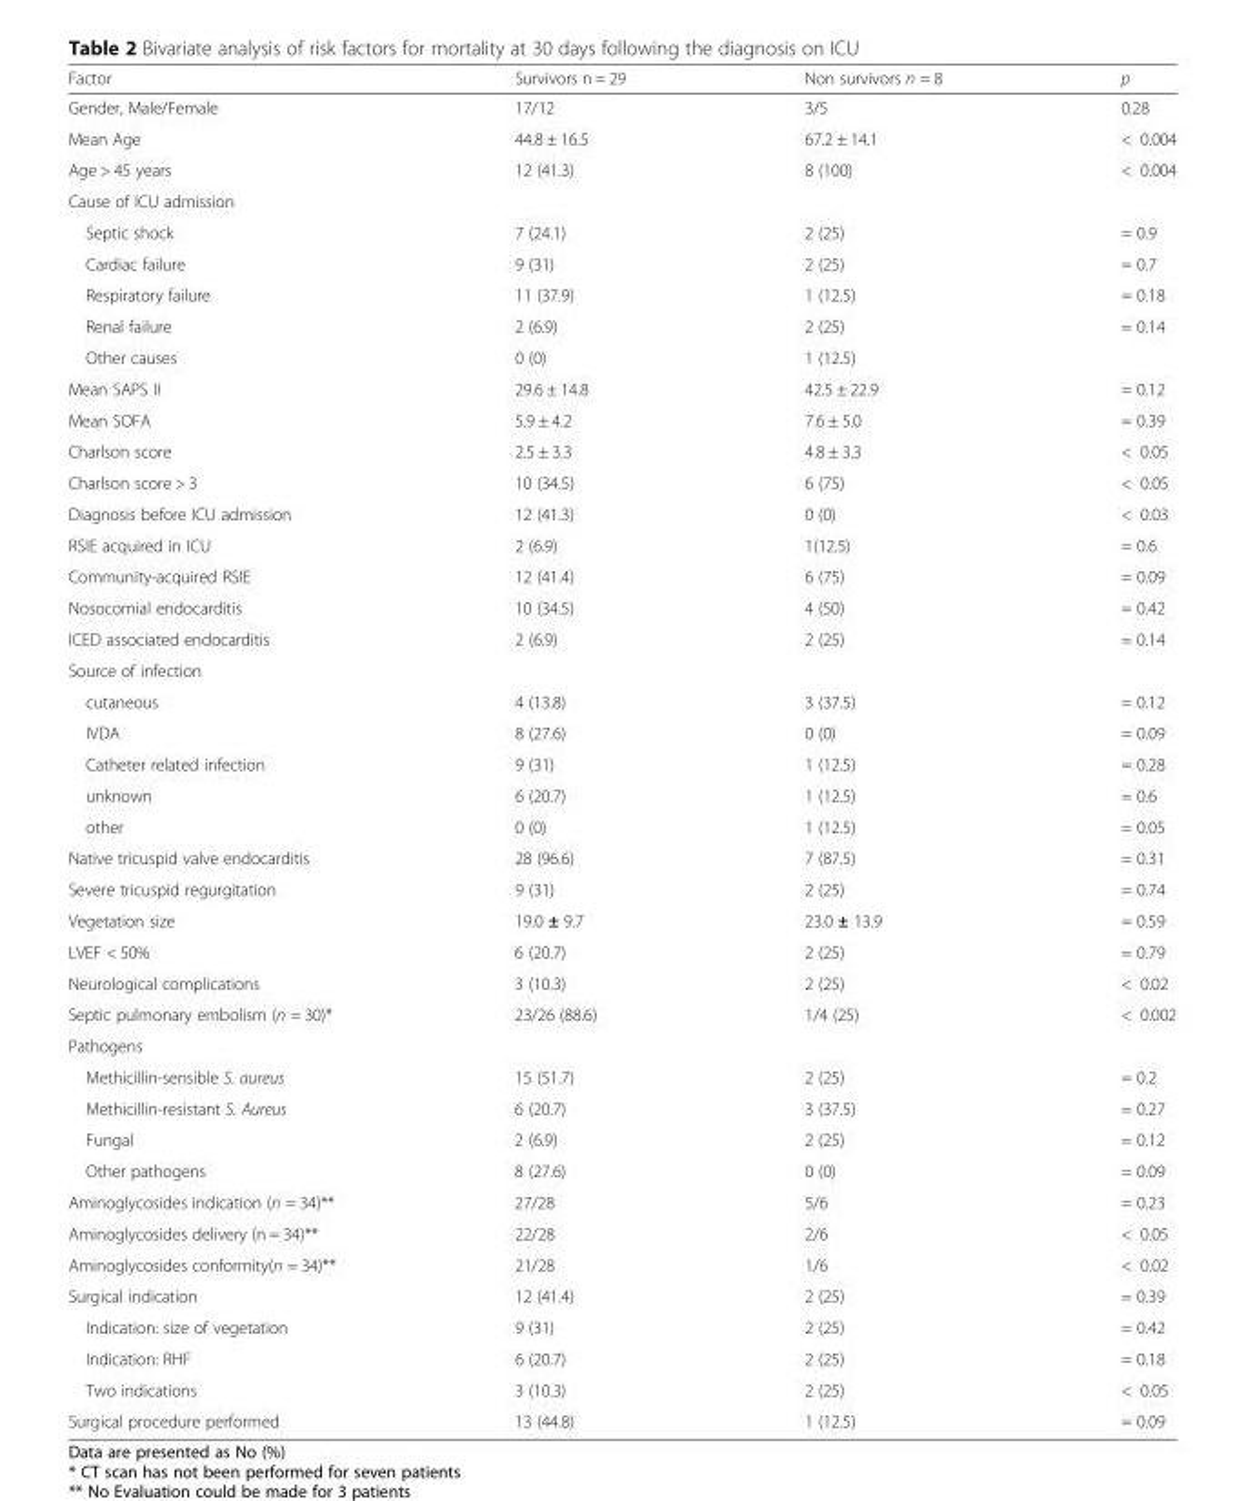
<table><thead><tr><td>Factor</td><td>Survivors n = 29</td><td>Non survivors n = 8</td><td>p</td></tr></thead><tbody><tr><td>Gender, Male/Female</td><td>17/12</td><td>3/5</td><td>0.28</td></tr><tr><td>Mean Age</td><td>44.8 ± 16.5</td><td>67.2 ± 14.1</td><td>&lt; 0.004</td></tr><tr><td>Age &gt; 45 years</td><td>12 (41.3)</td><td>8 (100)</td><td>&lt; 0.004</td></tr><tr><td colspan="4">Cause of ICU admission</td></tr><tr><td>Septic shock</td><td>7 (24.1)</td><td>2 (25)</td><td>= 0.9</td></tr><tr><td>Cardiac failure</td><td>9 (31)</td><td>2 (25)</td><td>= 0.7</td></tr><tr><td>Respiratory failure</td><td>11 (37.9)</td><td>1 (12.5)</td><td>= 0.18</td></tr><tr><td>Renal failure</td><td>2 (6.9)</td><td>2 (25)</td><td>= 0.14</td></tr><tr><td>Other causes</td><td>0 (0)</td><td>1 (12.5)</td><td></td></tr><tr><td>Mean SAPS II</td><td>29.6 ± 14.8</td><td>42.5 ± 22.9</td><td>= 0.12</td></tr><tr><td>Mean SOFA</td><td>5.9 ± 4.2</td><td>7.6 ± 5.0</td><td>= 0.39</td></tr><tr><td>Charlson score</td><td>2.5 ± 3.3</td><td>4.8 ± 3.3</td><td>&lt; 0.05</td></tr><tr><td>Charlson score &gt; 3</td><td>10 (34.5)</td><td>6 (75)</td><td>&lt; 0.05</td></tr><tr><td>Diagnosis before ICU admission</td><td>12 (41.3)</td><td>0 (0)</td><td>&lt; 0.03</td></tr><tr><td>RSIE acquired in ICU</td><td>2 (6.9)</td><td>1(12.5)</td><td>= 0.6</td></tr><tr><td>Community-acquired RSIE</td><td>12 (41.4)</td><td>6 (75)</td><td>= 0.09</td></tr><tr><td>Nosocomial endocarditis</td><td>10 (34.5)</td><td>4 (50)</td><td>= 0.42</td></tr><tr><td>ICED associated endocarditis</td><td>2 (6.9)</td><td>2 (25)</td><td>= 0.14</td></tr><tr><td colspan="4">Source of infection</td></tr><tr><td>cutaneous</td><td>4 (13.8)</td><td>3 (37.5)</td><td>= 0.12</td></tr><tr><td>IVDA</td><td>8 (27.6)</td><td>0 (0)</td><td>= 0.09</td></tr><tr><td>Catheter related infection</td><td>9 (31)</td><td>1 (12.5)</td><td>= 0.28</td></tr><tr><td>unknown</td><td>6 (20.7)</td><td>1 (12.5)</td><td>= 0.6</td></tr><tr><td>other</td><td>0 (0)</td><td>1 (12.5)</td><td>= 0.05</td></tr><tr><td>Native tricuspid valve endocarditis</td><td>28 (96.6)</td><td>7 (87.5)</td><td>= 0.31</td></tr><tr><td>Severe tricuspid regurgitation</td><td>9 (31)</td><td>2 (25)</td><td>= 0.74</td></tr><tr><td>Vegetation size</td><td>19.0 ± 9.7</td><td>23.0 ± 13.9</td><td>= 0.59</td></tr><tr><td>LVEF &lt; 50%</td><td>6 (20.7)</td><td>2 (25)</td><td>= 0.79</td></tr><tr><td>Neurological complications</td><td>3 (10.3)</td><td>2 (25)</td><td>&lt; 0.02</td></tr><tr><td>Septic pulmonary embolism (n = 30)*</td><td>23/26 (88.6)</td><td>1/4 (25)</td><td>&lt; 0.002</td></tr><tr><td colspan="4">Pathogens</td></tr><tr><td>Methicillin-sensible S. aureus</td><td>15 (51.7)</td><td>2 (25)</td><td>= 0.2</td></tr><tr><td>Methicillin-resistant S. Aureus</td><td>6 (20.7)</td><td>3 (37.5)</td><td>= 0.27</td></tr><tr><td>Fungal</td><td>2 (6.9)</td><td>2 (25)</td><td>= 0.12</td></tr><tr><td>Other pathogens</td><td>8 (27.6)</td><td>0 (0)</td><td>= 0.09</td></tr><tr><td>Aminoglycosides indication (n = 34)**</td><td>27/28</td><td>5/6</td><td>= 0.23</td></tr><tr><td>Aminoglycosides delivery (n = 34)**</td><td>22/28</td><td>2/6</td><td>&lt; 0.05</td></tr><tr><td>Aminoglycosides conformity(n = 34)**</td><td>21/28</td><td>1/6</td><td>&lt; 0.02</td></tr><tr><td>Surgical indication</td><td>12 (41.4)</td><td>2 (25)</td><td>= 0.39</td></tr><tr><td>Indication: size of vegetation</td><td>9 (31)</td><td>2 (25)</td><td>= 0.42</td></tr><tr><td>Indication: RHF</td><td>6 (20.7)</td><td>2 (25)</td><td>= 0.18</td></tr><tr><td>Two indications</td><td>3 (10.3)</td><td>2 (25)</td><td>&lt; 0.05</td></tr><tr><td>Surgical procedure performed</td><td>13 (44.8)</td><td>1 (12.5)</td><td>= 0.09</td></tr></tbody></table>